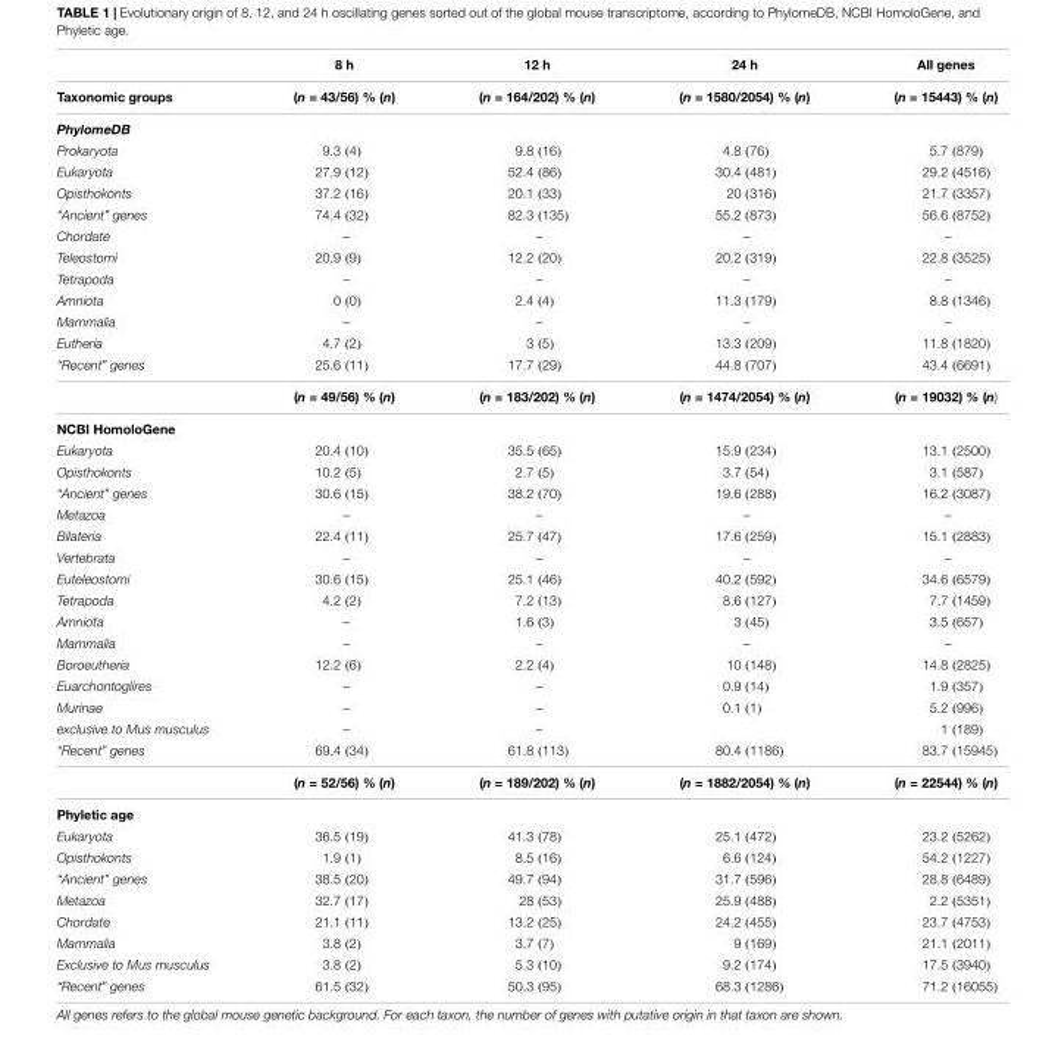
<table><thead><tr><td rowspan="2">Taxonomic groups</td><td rowspan="2">8 h (n = 43/56) % (n)</td><td rowspan="2">12 h (n = 164/202) % (n)</td><td rowspan="2">24 h (n = 1580/2054) % (n)</td><td rowspan="2">All genes (n = 15443) % (n)</td></tr><tr></tr></thead><tbody><tr><td colspan="5">PhylomeDB</td></tr><tr><td>Prokaryota</td><td>9.3 (4)</td><td>9.8 (16)</td><td>4.8 (76)</td><td>5.7 (879)</td></tr><tr><td>Eukaryota</td><td>27.9 (12)</td><td>52.4 (86)</td><td>30.4 (481)</td><td>29.2 (4516)</td></tr><tr><td>Opisthokonts</td><td>37.2 (16)</td><td>20.1 (33)</td><td>20 (316)</td><td>21.7 (3357)</td></tr><tr><td>“Ancient” genes</td><td>74.4 (32)</td><td>82.3 (135)</td><td>55.2 (873)</td><td>56.6 (8752)</td></tr><tr><td>Chordate</td><td>–</td><td>–</td><td>–</td><td>–</td></tr><tr><td>Teleostomi</td><td>20.9 (9)</td><td>12.2 (20)</td><td>20.2 (319)</td><td>22.8 (3525)</td></tr><tr><td>Tetrapoda</td><td>–</td><td>–</td><td>–</td><td>–</td></tr><tr><td>Amniota</td><td>0 (0)</td><td>2.4 (4)</td><td>11.3 (179)</td><td>8.8 (1346)</td></tr><tr><td>Mammalia</td><td>–</td><td>–</td><td>–</td><td>–</td></tr><tr><td>Eutheria</td><td>4.7 (2)</td><td>3 (5)</td><td>13.3 (209)</td><td>11.8 (1820)</td></tr><tr><td rowspan="2">“Recent” genes</td><td>25.6 (11)</td><td>17.7 (29)</td><td>44.8 (707)</td><td>43.4 (6691)</td></tr><tr><td>(n = 49/56) % (n)</td><td>(n = 183/202) % (n)</td><td>(n = 1474/2054) % (n)</td><td>(n = 19032) % (n)</td></tr><tr><td colspan="5">NCBI HomoloGene</td></tr><tr><td>Eukaryota</td><td>20.4 (10)</td><td>35.5 (65)</td><td>15.9 (234)</td><td>13.1 (2500)</td></tr><tr><td>Opisthokonts</td><td>10.2 (5)</td><td>2.7 (5)</td><td>3.7 (54)</td><td>3.1 (587)</td></tr><tr><td>“Ancient” genes</td><td>30.6 (15)</td><td>38.2 (70)</td><td>19.6 (288)</td><td>16.2 (3087)</td></tr><tr><td>Metazoa</td><td>–</td><td>–</td><td>–</td><td>–</td></tr><tr><td>Bilateria</td><td>22.4 (11)</td><td>25.7 (47)</td><td>17.6 (259)</td><td>15.1 (2883)</td></tr><tr><td>Vertebrata</td><td>–</td><td>–</td><td>–</td><td>–</td></tr><tr><td>Euteleostomi</td><td>30.6 (15)</td><td>25.1 (46)</td><td>40.2 (592)</td><td>34.6 (6579)</td></tr><tr><td>Tetrapoda</td><td>4.2 (2)</td><td>7.2 (13)</td><td>8.6 (127)</td><td>7.7 (1459)</td></tr><tr><td>Amniota</td><td>–</td><td>1.6 (3)</td><td>3 (45)</td><td>3.5 (657)</td></tr><tr><td>Mammalia</td><td>–</td><td>–</td><td>–</td><td>–</td></tr><tr><td>Boroeutheria</td><td>12.2 (6)</td><td>2.2 (4)</td><td>10 (148)</td><td>14.8 (2825)</td></tr><tr><td>Euarchontoglires</td><td>–</td><td>–</td><td>0.9 (14)</td><td>1.9 (357)</td></tr><tr><td>Murinae</td><td>–</td><td>–</td><td>0.1 (1)</td><td>5.2 (996)</td></tr><tr><td>exclusive to Mus musculus</td><td>–</td><td>–</td><td></td><td>1 (189)</td></tr><tr><td rowspan="2">“Recent” genes</td><td>69.4 (34)</td><td>61.8 (113)</td><td>80.4 (1186)</td><td>83.7 (15945)</td></tr><tr><td>(n = 52/56) % (n)</td><td>(n = 189/202) % (n)</td><td>(n = 1882/2054) % (n)</td><td>(n = 22544) % (n)</td></tr><tr><td colspan="5">Phyletic age</td></tr><tr><td>Eukaryota</td><td>36.5 (19)</td><td>41.3 (78)</td><td>25.1 (472)</td><td>23.2 (5262)</td></tr><tr><td>Opisthokonts</td><td>1.9 (1)</td><td>8.5 (16)</td><td>6.6 (124)</td><td>54.2 (1227)</td></tr><tr><td>“Ancient” genes</td><td>38.5 (20)</td><td>49.7 (94)</td><td>31.7 (596)</td><td>28.8 (6489)</td></tr><tr><td>Metazoa</td><td>32.7 (17)</td><td>28 (53)</td><td>25.9 (488)</td><td>2.2 (5351)</td></tr><tr><td>Chordate</td><td>21.1 (11)</td><td>13.2 (25)</td><td>24.2 (455)</td><td>23.7 (4753)</td></tr><tr><td>Mammalia</td><td>3.8 (2)</td><td>3.7 (7)</td><td>9 (169)</td><td>21.1 (2011)</td></tr><tr><td>Exclusive to Mus musculus</td><td>3.8 (2)</td><td>5.3 (10)</td><td>9.2 (174)</td><td>17.5 (3940)</td></tr><tr><td>“Recent” genes</td><td>61.5 (32)</td><td>50.3 (95)</td><td>68.3 (1286)</td><td>71.2 (16055)</td></tr></tbody></table>